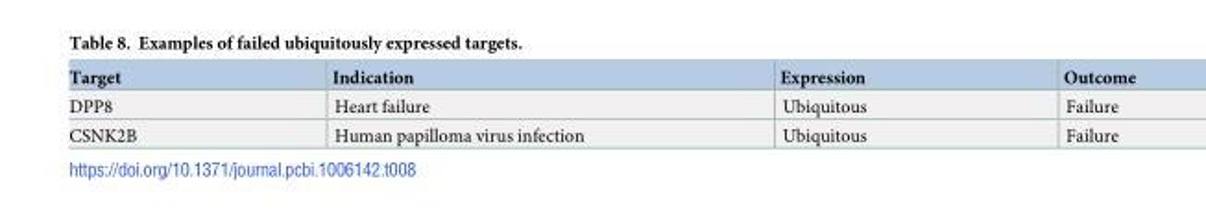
<table><thead><tr><td>Target</td><td>Indication</td><td>Expression</td><td>Outcome</td></tr></thead><tbody><tr><td>DPP8</td><td>Heart failure</td><td>Ubiquitous</td><td>Failure</td></tr><tr><td>CSNK2B</td><td>Human papilloma virus infection</td><td>Ubiquitous</td><td>Failure</td></tr></tbody></table>